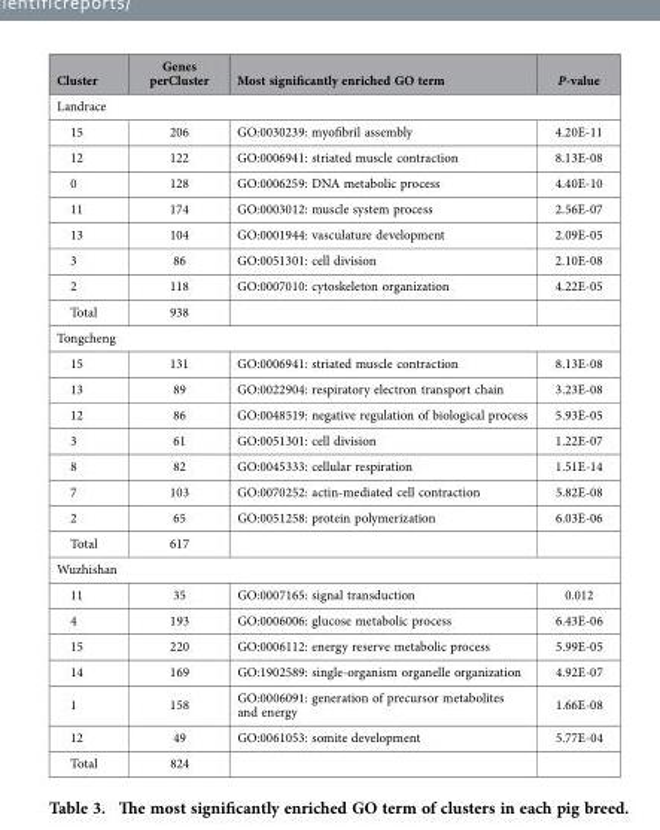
<table><thead><tr><td>Cluster</td><td>Genes perCluster</td><td>Most significantly enriched GO term</td><td>P-value</td></tr></thead><tbody><tr><td colspan="4">Landrace</td></tr><tr><td>15</td><td>206</td><td>GO:0030239: myofibril assembly</td><td>4.20E-11</td></tr><tr><td>12</td><td>122</td><td>GO:0006941: striated muscle contraction</td><td>8.13E-08</td></tr><tr><td>0</td><td>128</td><td>GO:0006259: DNA metabolic process</td><td>4.40E-10</td></tr><tr><td>11</td><td>174</td><td>GO:0003012: muscle system process</td><td>2.56E-07</td></tr><tr><td>13</td><td>104</td><td>GO:0001944: vasculature development</td><td>2.09E-05</td></tr><tr><td>3</td><td>86</td><td>GO:0051301: cell division</td><td>2.10E-08</td></tr><tr><td>2</td><td>118</td><td>GO:0007010: cytoskeleton organization</td><td>4.22E-05</td></tr><tr><td>Total</td><td>938</td><td></td><td></td></tr><tr><td colspan="4">Tongcheng</td></tr><tr><td>15</td><td>131</td><td>GO:0006941: striated muscle contraction</td><td>8.13E-08</td></tr><tr><td>13</td><td>89</td><td>GO:0022904: respiratory electron transport chain</td><td>3.23E-08</td></tr><tr><td>12</td><td>86</td><td>GO:0048519: negative regulation of biological process</td><td>5.93E-05</td></tr><tr><td>3</td><td>61</td><td>GO:0051301: cell division</td><td>1.22E-07</td></tr><tr><td>8</td><td>82</td><td>GO:0045333: cellular respiration</td><td>1.51E-14</td></tr><tr><td>7</td><td>103</td><td>GO:0070252: actin-mediated cell contraction</td><td>5.82E-08</td></tr><tr><td>2</td><td>65</td><td>GO:0051258: protein polymerization</td><td>6.03E-06</td></tr><tr><td>Total</td><td>617</td><td></td><td></td></tr><tr><td colspan="4">Wuzhishan</td></tr><tr><td>11</td><td>35</td><td>GO:0007165: signal transduction</td><td>0.012</td></tr><tr><td>4</td><td>193</td><td>GO:0006006: glucose metabolic process</td><td>6.43E-06</td></tr><tr><td>15</td><td>220</td><td>GO:0006112: energy reserve metabolic process</td><td>5.99E-05</td></tr><tr><td>14</td><td>169</td><td>GO:1902589: single-organism organelle organization</td><td>4.92E-07</td></tr><tr><td>1</td><td>158</td><td>GO:0006091: generation of precursor metabolites and energy</td><td>1.66E-08</td></tr><tr><td>12</td><td>49</td><td>GO:0061053: somite development</td><td>5.77E-04</td></tr><tr><td>Total</td><td>824</td><td></td><td></td></tr></tbody></table>